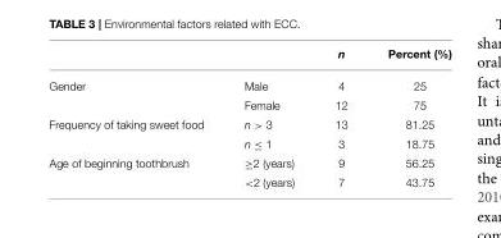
<table><thead><tr><td></td><td></td><td>n</td><td>Percent (%)</td></tr></thead><tbody><tr><td rowspan="2">Gender</td><td>Male</td><td>4</td><td>25</td></tr><tr><td>Female</td><td>12</td><td>75</td></tr><tr><td rowspan="2">Frequency of taking sweet food</td><td>n &gt; 3</td><td>13</td><td>81.25</td></tr><tr><td>n ≤ 1</td><td>3</td><td>18.75</td></tr><tr><td rowspan="2">Age of beginning toothbrush</td><td>≥2 (years)</td><td>9</td><td>56.25</td></tr><tr><td>&lt;2 (years)</td><td>7</td><td>43.75</td></tr></tbody></table>